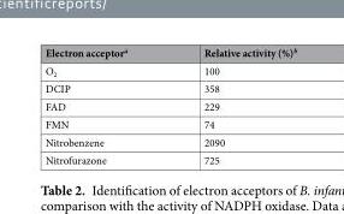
<table><thead><tr><td>Electron acceptor<sup>a</sup></td><td>Relative activity (%)<sup>b</sup></td></tr></thead><tbody><tr><td>O<sub>2</sub></td><td>100</td></tr><tr><td>DCIP</td><td>358</td></tr><tr><td>FAD</td><td>229</td></tr><tr><td>FMN</td><td>74</td></tr><tr><td>Nitrobenzene</td><td>2090</td></tr><tr><td>Nitrofurazone</td><td>725</td></tr></tbody></table>